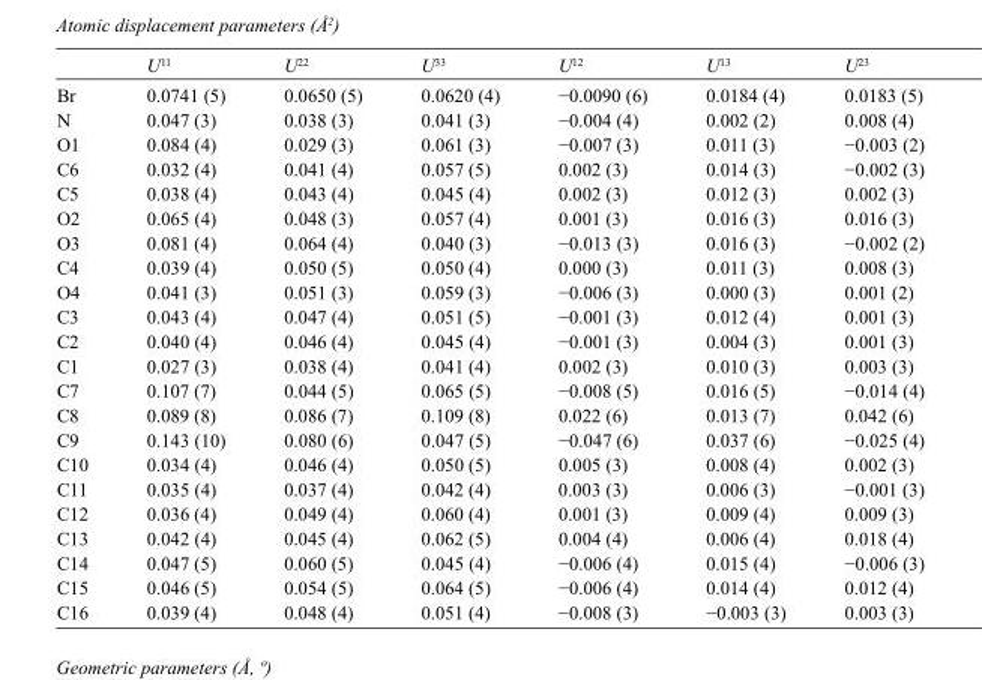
<table><thead><tr><td></td><td>U<sup>11</sup></td><td>U<sup>22</sup></td><td>U<sup>33</sup></td><td>U<sup>12</sup></td><td>U<sup>13</sup></td><td>U<sup>23</sup></td></tr></thead><tbody><tr><td>Br</td><td>0.0741 (5)</td><td>0.0650 (5)</td><td>0.0620 (4)</td><td>−0.0090 (6)</td><td>0.0184 (4)</td><td>0.0183 (5)</td></tr><tr><td>N</td><td>0.047 (3)</td><td>0.038 (3)</td><td>0.041 (3)</td><td>−0.004 (4)</td><td>0.002 (2)</td><td>0.008 (4)</td></tr><tr><td>O1</td><td>0.084 (4)</td><td>0.029 (3)</td><td>0.061 (3)</td><td>−0.007 (3)</td><td>0.011 (3)</td><td>−0.003 (2)</td></tr><tr><td>C6</td><td>0.032 (4)</td><td>0.041 (4)</td><td>0.057 (5)</td><td>0.002 (3)</td><td>0.014 (3)</td><td>−0.002 (3)</td></tr><tr><td>C5</td><td>0.038 (4)</td><td>0.043 (4)</td><td>0.045 (4)</td><td>0.002 (3)</td><td>0.012 (3)</td><td>0.002 (3)</td></tr><tr><td>O2</td><td>0.065 (4)</td><td>0.048 (3)</td><td>0.057 (4)</td><td>0.001 (3)</td><td>0.016 (3)</td><td>0.016 (3)</td></tr><tr><td>O3</td><td>0.081 (4)</td><td>0.064 (4)</td><td>0.040 (3)</td><td>−0.013 (3)</td><td>0.016 (3)</td><td>−0.002 (2)</td></tr><tr><td>C4</td><td>0.039 (4)</td><td>0.050 (5)</td><td>0.050 (4)</td><td>0.000 (3)</td><td>0.011 (3)</td><td>0.008 (3)</td></tr><tr><td>O4</td><td>0.041 (3)</td><td>0.051 (3)</td><td>0.059 (3)</td><td>−0.006 (3)</td><td>0.000 (3)</td><td>0.001 (2)</td></tr><tr><td>C3</td><td>0.043 (4)</td><td>0.047 (4)</td><td>0.051 (5)</td><td>−0.001 (3)</td><td>0.012 (4)</td><td>0.001 (3)</td></tr><tr><td>C2</td><td>0.040 (4)</td><td>0.046 (4)</td><td>0.045 (4)</td><td>−0.001 (3)</td><td>0.004 (3)</td><td>0.001 (3)</td></tr><tr><td>C1</td><td>0.027 (3)</td><td>0.038 (4)</td><td>0.041 (4)</td><td>0.002 (3)</td><td>0.010 (3)</td><td>0.003 (3)</td></tr><tr><td>C7</td><td>0.107 (7)</td><td>0.044 (5)</td><td>0.065 (5)</td><td>−0.008 (5)</td><td>0.016 (5)</td><td>−0.014 (4)</td></tr><tr><td>C8</td><td>0.089 (8)</td><td>0.086 (7)</td><td>0.109 (8)</td><td>0.022 (6)</td><td>0.013 (7)</td><td>0.042 (6)</td></tr><tr><td>C9</td><td>0.143 (10)</td><td>0.080 (6)</td><td>0.047 (5)</td><td>−0.047 (6)</td><td>0.037 (6)</td><td>−0.025 (4)</td></tr><tr><td>C10</td><td>0.034 (4)</td><td>0.046 (4)</td><td>0.050 (5)</td><td>0.005 (3)</td><td>0.008 (4)</td><td>0.002 (3)</td></tr><tr><td>C11</td><td>0.035 (4)</td><td>0.037 (4)</td><td>0.042 (4)</td><td>0.003 (3)</td><td>0.006 (3)</td><td>−0.001 (3)</td></tr><tr><td>C12</td><td>0.036 (4)</td><td>0.049 (4)</td><td>0.060 (4)</td><td>0.001 (3)</td><td>0.009 (4)</td><td>0.009 (3)</td></tr><tr><td>C13</td><td>0.042 (4)</td><td>0.045 (4)</td><td>0.062 (5)</td><td>0.004 (4)</td><td>0.006 (4)</td><td>0.018 (4)</td></tr><tr><td>C14</td><td>0.047 (5)</td><td>0.060 (5)</td><td>0.045 (4)</td><td>−0.006 (4)</td><td>0.015 (4)</td><td>−0.006 (3)</td></tr><tr><td>C15</td><td>0.046 (5)</td><td>0.054 (5)</td><td>0.064 (5)</td><td>−0.006 (4)</td><td>0.014 (4)</td><td>0.012 (4)</td></tr><tr><td>C16</td><td>0.039 (4)</td><td>0.048 (4)</td><td>0.051 (4)</td><td>−0.008 (3)</td><td>−0.003 (3)</td><td>0.003 (3)</td></tr></tbody></table>